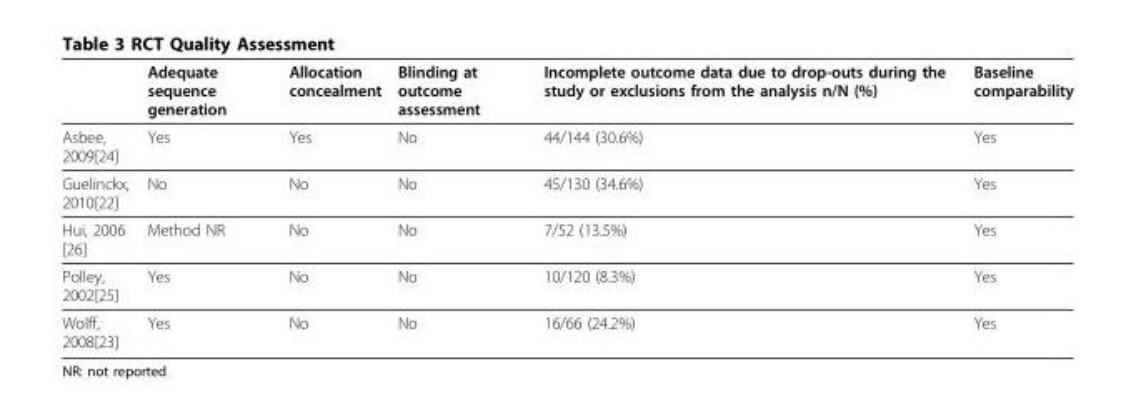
<table><thead><tr><td></td><td>Adequate sequence generation</td><td>Allocation concealment</td><td>Blinding at outcome assessment</td><td>Incomplete outcome data due to drop-outs during the study or exclusions from the analysis n/N (%)</td><td>Baseline comparability</td></tr></thead><tbody><tr><td>Asbee, 2009[24]</td><td>Yes</td><td>Yes</td><td>No</td><td>44/144 (30.6%)</td><td>Yes</td></tr><tr><td>Guelinckx, 2010[22]</td><td>No</td><td>No</td><td>No</td><td>45/130 (34.6%)</td><td>Yes</td></tr><tr><td>Hui, 2006 [26]</td><td>Method NR</td><td>No</td><td>No</td><td>7/52 (13.5%)</td><td>Yes</td></tr><tr><td>Polley, 2002[25]</td><td>Yes</td><td>No</td><td>No</td><td>10/120 (8.3%)</td><td>Yes</td></tr><tr><td>Wolff, 2008[23]</td><td>Yes</td><td>No</td><td>No</td><td>16/66 (24.2%)</td><td>Yes</td></tr></tbody></table>